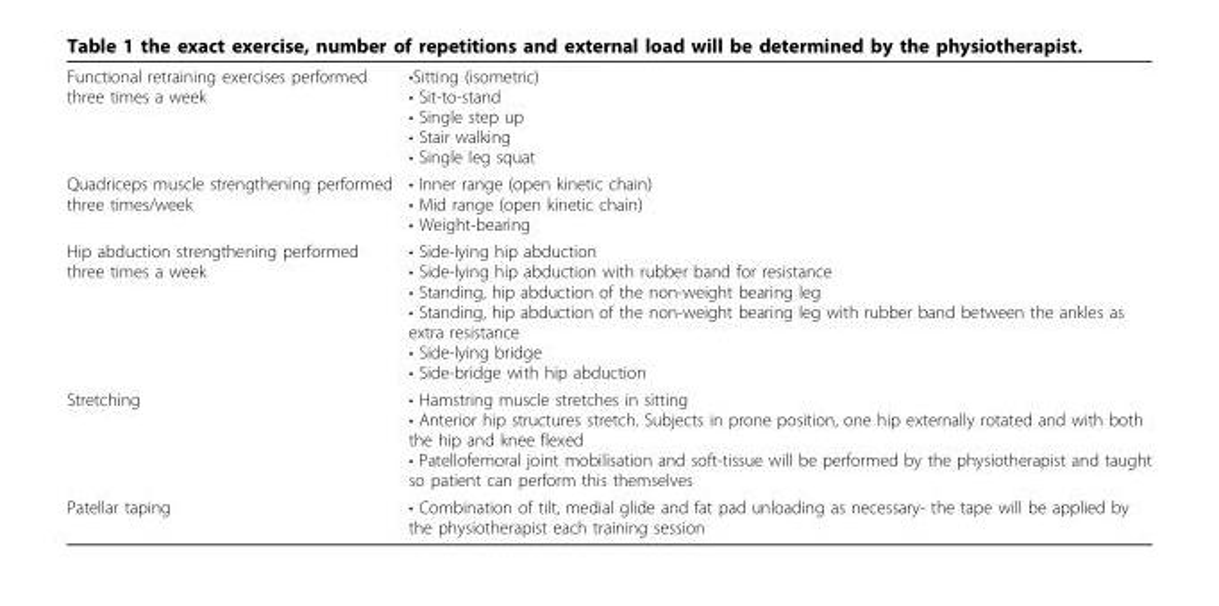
<table><tbody><tr><td>Functional retraining exercises performed three times a week</td><td>•Sitting (isometric) • Sit-to-stand • Single step up • Stair walking • Single leg squat</td></tr><tr><td>Quadriceps muscle strengthening performed three times/week</td><td>• Inner range (open kinetic chain) • Mid range (open kinetic chain) • Weight-bearing</td></tr><tr><td>Hip abduction strengthening performed three times a week</td><td>• Side-lying hip abduction • Side-lying hip abduction with rubber band for resistance • Standing, hip abduction of the non-weight bearing leg • Standing, hip abduction of the non-weight bearing leg with rubber band between the ankles as extra resistance • Side-lying bridge • Side-bridge with hip abduction</td></tr><tr><td>Stretching</td><td>• Hamstring muscle stretches in sitting • Anterior hip structures stretch. Subjects in prone position, one hip externally rotated and with both the hip and knee flexed • Patellofemoral joint mobilisation and soft-tissue will be performed by the physiotherapist and taught so patient can perform this themselves</td></tr><tr><td>Patellar taping</td><td>• Combination of tilt, medial glide and fat pad unloading as necessary- the tape will be applied by the physiotherapist each training session</td></tr></tbody></table>